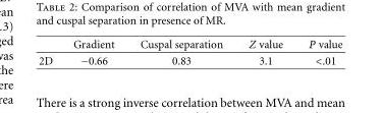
<table><thead><tr><td></td><td>Gradient</td><td>Cuspal separation</td><td>Z value</td><td>P value</td></tr></thead><tbody><tr><td>2D</td><td>−0.66</td><td>0.83</td><td>3.1</td><td>&lt;.01</td></tr></tbody></table>